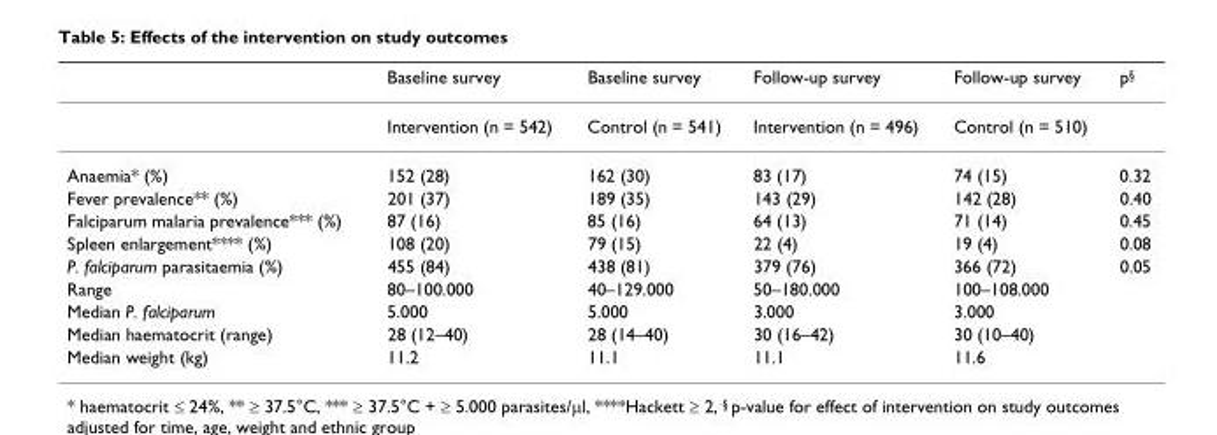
<table><thead><tr><td></td><td>Baseline survey</td><td>Baseline survey</td><td>Follow-up survey</td><td>Follow-up survey</td><td>p<sup>§</sup></td></tr></thead><tbody><tr><td></td><td>Intervention (n = 542)</td><td>Control (n = 541)</td><td>Intervention (n = 496)</td><td>Control (n = 510)</td><td></td></tr><tr><td>Anaemia* (%)</td><td>152 (28)</td><td>162 (30)</td><td>83 (17)</td><td>74 (15)</td><td>0.32</td></tr><tr><td>Fever prevalence** (%)</td><td>201 (37)</td><td>189 (35)</td><td>143 (29)</td><td>142 (28)</td><td>0.40</td></tr><tr><td>Falciparum malaria prevalence*** (%)</td><td>87 (16)</td><td>85 (16)</td><td>64 (13)</td><td>71 (14)</td><td>0.45</td></tr><tr><td>Spleen enlargement**** (%)</td><td>108 (20)</td><td>79 (15)</td><td>22 (4)</td><td>19 (4)</td><td>0.08</td></tr><tr><td>P. falciparum parasitaemia (%)</td><td>455 (84)</td><td>438 (81)</td><td>379 (76)</td><td>366 (72)</td><td>0.05</td></tr><tr><td>Range</td><td>80–100.000</td><td>40–129.000</td><td>50–180.000</td><td>100–108.000</td><td></td></tr><tr><td>Median P. falciparum</td><td>5.000</td><td>5.000</td><td>3.000</td><td>3.000</td><td></td></tr><tr><td>Median haematocrit (range)</td><td>28 (12–40)</td><td>28 (14–40)</td><td>30 (16–42)</td><td>30 (10–40)</td><td></td></tr><tr><td>Median weight (kg)</td><td>11.2</td><td>11.1</td><td>11.1</td><td>11.6</td><td></td></tr></tbody></table>